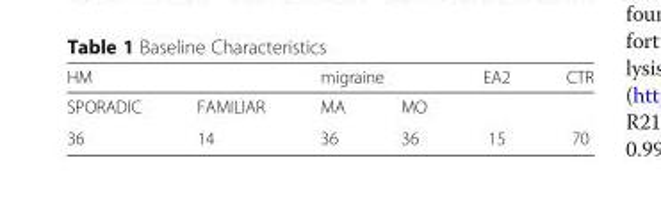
<table><thead><tr><td colspan="2">HM</td><td colspan="2">migraine</td><td rowspan="2">EA2</td><td rowspan="2">CTR</td></tr><tr><td>SPORADIC</td><td>FAMILIAR</td><td>MA</td><td>MO</td></tr></thead><tbody><tr><td>36</td><td>14</td><td>36</td><td>36</td><td>15</td><td>70</td></tr></tbody></table>